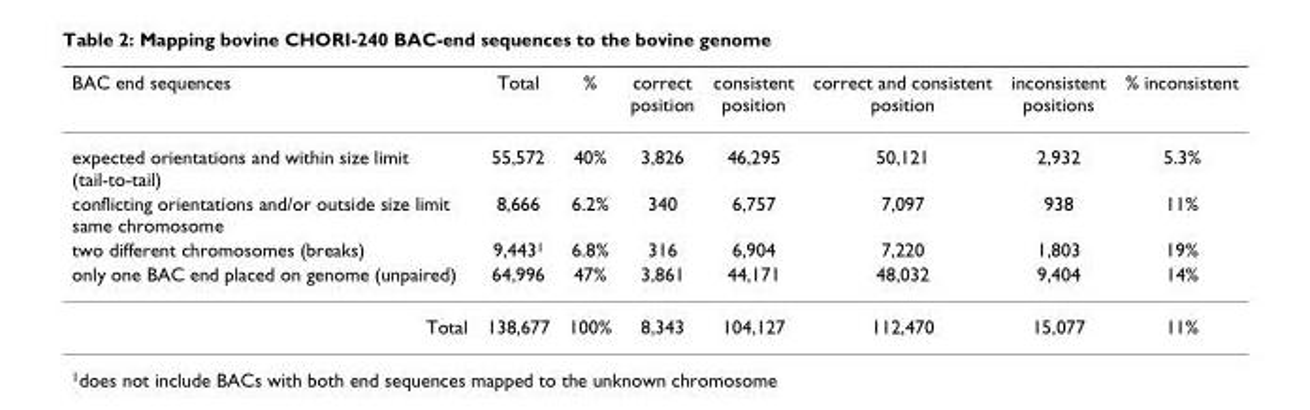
<table><thead><tr><td>BAC end sequences</td><td>Total</td><td>%</td><td>correct position</td><td>consistent position</td><td>correct and consistent position</td><td>inconsistent positions</td><td>% inconsistent</td></tr></thead><tbody><tr><td>expected orientations and within size limit (tail-to-tail)</td><td>55,572</td><td>40%</td><td>3,826</td><td>46,295</td><td>50,121</td><td>2,932</td><td>5.3%</td></tr><tr><td>conflicting orientations and/or outside size limit same chromosome</td><td>8,666</td><td>6.2%</td><td>340</td><td>6,757</td><td>7,097</td><td>938</td><td>11%</td></tr><tr><td>two different chromosomes (breaks)</td><td>9,443<sup>1</sup></td><td>6.8%</td><td>316</td><td>6,904</td><td>7,220</td><td>1,803</td><td>19%</td></tr><tr><td>only one BAC end placed on genome (unpaired)</td><td>64,996</td><td>47%</td><td>3,861</td><td>44,171</td><td>48,032</td><td>9,404</td><td>14%</td></tr><tr><td>Total</td><td>138,677</td><td>100%</td><td>8,343</td><td>104,127</td><td>112,470</td><td>15,077</td><td>11%</td></tr></tbody></table>